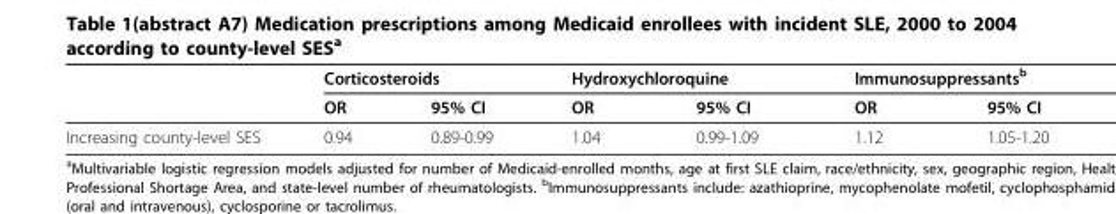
<table><thead><tr><td rowspan="2"></td><td colspan="2">Corticosteroids</td><td colspan="2">Hydroxychloroquine</td><td colspan="2">Immunosuppressants<sup>b</sup></td></tr><tr><td>OR</td><td>95% CI</td><td>OR</td><td>95% CI</td><td>OR</td><td>95% CI</td></tr></thead><tbody><tr><td>Increasing county-level SES</td><td>0.94</td><td>0.89-0.99</td><td>1.04</td><td>0.99-1.09</td><td>1.12</td><td>1.05-1.20</td></tr></tbody></table>